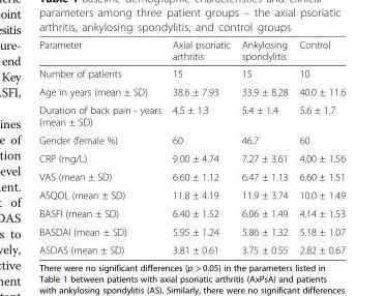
<table><thead><tr><td>Parameter</td><td>Axial psoriatic arthritis</td><td>Ankylosing spondylitis</td><td>Control</td></tr></thead><tbody><tr><td>Number of patients</td><td>15</td><td>15</td><td>10</td></tr><tr><td>Age in years (mean ± SD)</td><td>38.6 ± 7.93</td><td>33.9 ± 8.28</td><td>40.0 ± 11.6</td></tr><tr><td>Duration of back pain - years (mean ± SD)</td><td>4.5 ± 1.3</td><td>5.4 ± 1.4</td><td>5.6 ± 1.7</td></tr><tr><td>Gender (female %)</td><td>60</td><td>46.7</td><td>60</td></tr><tr><td>CRP (mg/L)</td><td>9.00 ± 4.74</td><td>7.27 ± 3.61</td><td>4.00 ± 1.56</td></tr><tr><td>VAS (mean ± SD)</td><td>6.60 ± 1.12</td><td>6.47 ± 1.13</td><td>6.60 ± 1.51</td></tr><tr><td>ASQOL (mean ± SD)</td><td>11.8 ± 4.19</td><td>11.9 ± 3.74</td><td>10.0 ± 1.49</td></tr><tr><td>BASFI (mean ± SD)</td><td>6.40 ± 1.52</td><td>6.06 ± 1.49</td><td>4.14 ± 1.53</td></tr><tr><td>BASDAI (mean ± SD)</td><td>5.95 ± 1.24</td><td>5.86 ± 1.32</td><td>5.18 ± 1.07</td></tr><tr><td>ASDAS (mean ± SD)</td><td>3.81 ± 0.61</td><td>3.75 ± 0.55</td><td>2.82 ± 0.67</td></tr></tbody></table>